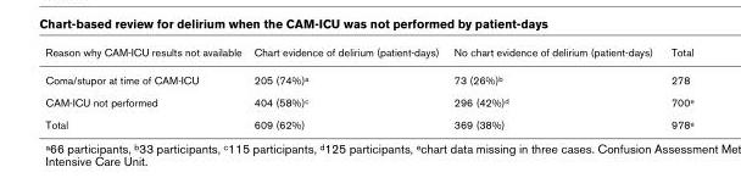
<table><thead><tr><td>Reason why CAM-ICU results not available</td><td>Chart evidence of delirium (patient-days)</td><td>No chart evidence of delirium (patient-days)</td><td>Total</td></tr></thead><tbody><tr><td>Coma/stupor at time of CAM-ICU</td><td>205 (74%)a</td><td>73 (26%)b</td><td>278</td></tr><tr><td>CAM-ICU not performed</td><td>404 (58%)c</td><td>296 (42%)d</td><td>700e</td></tr><tr><td>Total</td><td>609 (62%)</td><td>369 (38%)</td><td>978e</td></tr></tbody></table>